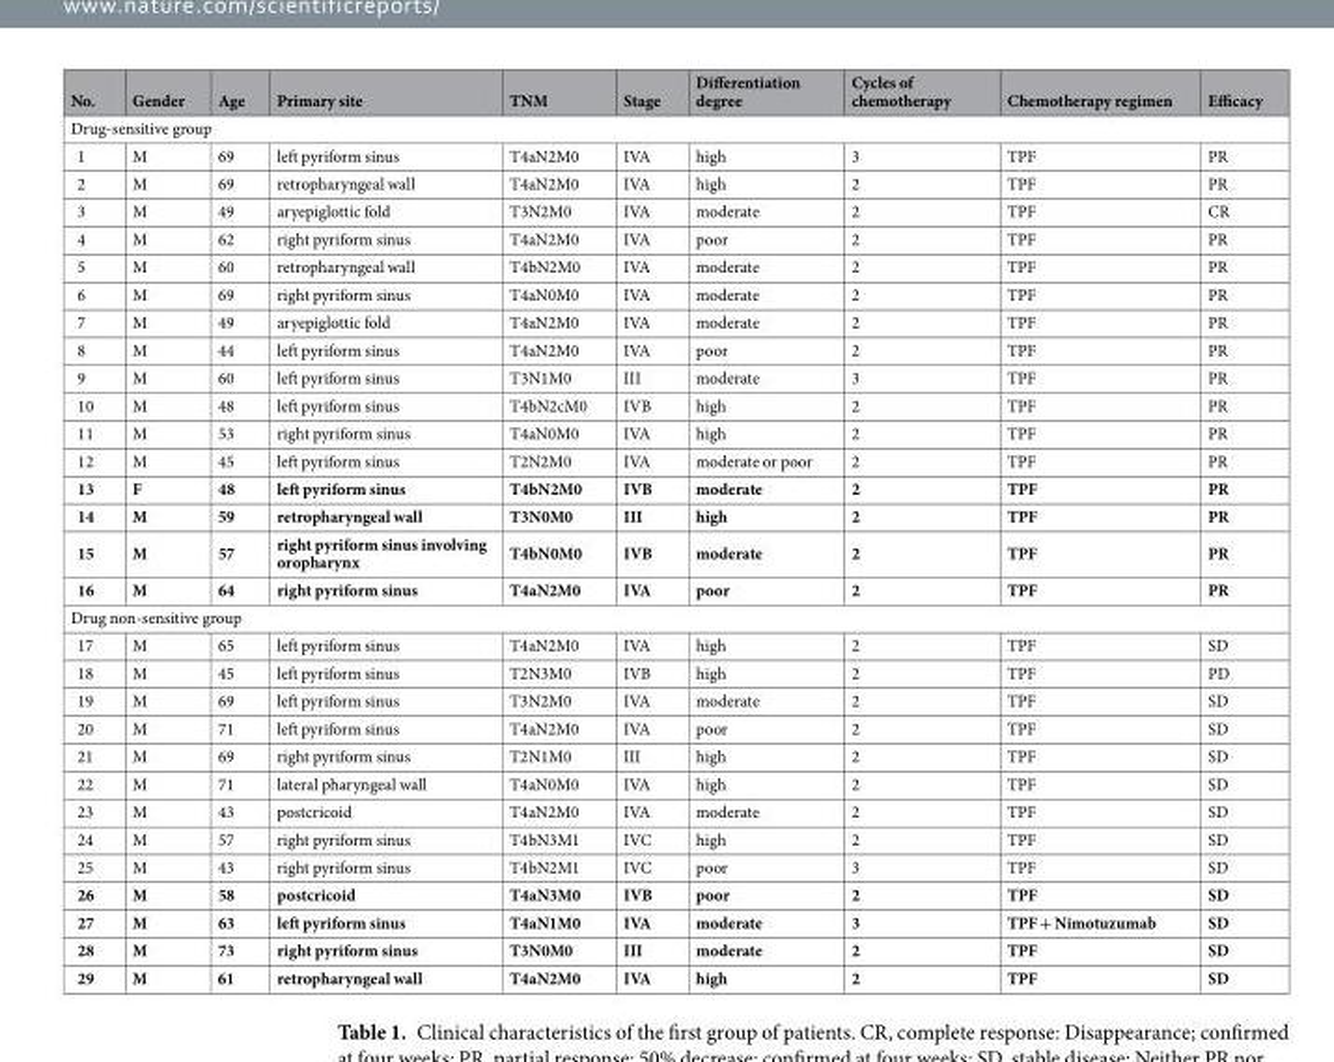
<table><thead><tr><td>No.</td><td>Gender</td><td>Age</td><td>Primary site</td><td>TNM</td><td>Stage</td><td>Differentiation degree</td><td>Cycles of chemotherapy</td><td>Chemotherapy regimen</td><td>Efficacy</td></tr></thead><tbody><tr><td colspan="10">Drug-sensitive group</td></tr><tr><td>1</td><td>M</td><td>69</td><td>left pyriform sinus</td><td>T4aN2M0</td><td>IVA</td><td>high</td><td>3</td><td>TPF</td><td>PR</td></tr><tr><td>2</td><td>M</td><td>69</td><td>retropharyngeal wall</td><td>T4aN2M0</td><td>IVA</td><td>high</td><td>2</td><td>TPF</td><td>PR</td></tr><tr><td>3</td><td>M</td><td>49</td><td>aryepiglottic fold</td><td>T3N2M0</td><td>IVA</td><td>moderate</td><td>2</td><td>TPF</td><td>CR</td></tr><tr><td>4</td><td>M</td><td>62</td><td>right pyriform sinus</td><td>T4aN2M0</td><td>IVA</td><td>poor</td><td>2</td><td>TPF</td><td>PR</td></tr><tr><td>5</td><td>M</td><td>60</td><td>retropharyngeal wall</td><td>T4bN2M0</td><td>IVA</td><td>moderate</td><td>2</td><td>TPF</td><td>PR</td></tr><tr><td>6</td><td>M</td><td>69</td><td>right pyriform sinus</td><td>T4aN0M0</td><td>IVA</td><td>moderate</td><td>2</td><td>TPF</td><td>PR</td></tr><tr><td>7</td><td>M</td><td>49</td><td>aryepiglottic fold</td><td>T4aN2M0</td><td>IVA</td><td>moderate</td><td>2</td><td>TPF</td><td>PR</td></tr><tr><td>8</td><td>M</td><td>44</td><td>left pyriform sinus</td><td>T4aN2M0</td><td>IVA</td><td>poor</td><td>2</td><td>TPF</td><td>PR</td></tr><tr><td>9</td><td>M</td><td>60</td><td>left pyriform sinus</td><td>T3N1M0</td><td>III</td><td>moderate</td><td>3</td><td>TPF</td><td>PR</td></tr><tr><td>10</td><td>M</td><td>48</td><td>left pyriform sinus</td><td>T4bN2cM0</td><td>IVB</td><td>high</td><td>2</td><td>TPF</td><td>PR</td></tr><tr><td>11</td><td>M</td><td>53</td><td>right pyriform sinus</td><td>T4aN0M0</td><td>IVA</td><td>high</td><td>2</td><td>TPF</td><td>PR</td></tr><tr><td>12</td><td>M</td><td>45</td><td>left pyriform sinus</td><td>T2N2M0</td><td>IVA</td><td>moderate or poor</td><td>2</td><td>TPF</td><td>PR</td></tr><tr><td>13</td><td>F</td><td>48</td><td>left pyriform sinus</td><td>T4bN2M0</td><td>IVB</td><td>moderate</td><td>2</td><td>TPF</td><td>PR</td></tr><tr><td>14</td><td>M</td><td>59</td><td>retropharyngeal wall</td><td>T3N0M0</td><td>III</td><td>high</td><td>2</td><td>TPF</td><td>PR</td></tr><tr><td>15</td><td>M</td><td>57</td><td>right pyriform sinus involving oropharynx</td><td>T4bN0M0</td><td>IVB</td><td>moderate</td><td>2</td><td>TPF</td><td>PR</td></tr><tr><td>16</td><td>M</td><td>64</td><td>right pyriform sinus</td><td>T4aN2M0</td><td>IVA</td><td>poor</td><td>2</td><td>TPF</td><td>PR</td></tr><tr><td colspan="10">Drug non-sensitive group</td></tr><tr><td>17</td><td>M</td><td>65</td><td>left pyriform sinus</td><td>T4aN2M0</td><td>IVA</td><td>high</td><td>2</td><td>TPF</td><td>SD</td></tr><tr><td>18</td><td>M</td><td>45</td><td>left pyriform sinus</td><td>T2N3M0</td><td>IVB</td><td>high</td><td>2</td><td>TPF</td><td>PD</td></tr><tr><td>19</td><td>M</td><td>69</td><td>left pyriform sinus</td><td>T3N2M0</td><td>IVA</td><td>moderate</td><td>2</td><td>TPF</td><td>SD</td></tr><tr><td>20</td><td>M</td><td>71</td><td>left pyriform sinus</td><td>T4aN2M0</td><td>IVA</td><td>poor</td><td>2</td><td>TPF</td><td>SD</td></tr><tr><td>21</td><td>M</td><td>69</td><td>right pyriform sinus</td><td>T2N1M0</td><td>III</td><td>high</td><td>2</td><td>TPF</td><td>SD</td></tr><tr><td>22</td><td>M</td><td>71</td><td>lateral pharyngeal wall</td><td>T4aN0M0</td><td>IVA</td><td>high</td><td>2</td><td>TPF</td><td>SD</td></tr><tr><td>23</td><td>M</td><td>43</td><td>postcricoid</td><td>T4aN2M0</td><td>IVA</td><td>moderate</td><td>2</td><td>TPF</td><td>SD</td></tr><tr><td>24</td><td>M</td><td>57</td><td>right pyriform sinus</td><td>T4bN3M1</td><td>IVC</td><td>high</td><td>2</td><td>TPF</td><td>SD</td></tr><tr><td>25</td><td>M</td><td>43</td><td>right pyriform sinus</td><td>T4bN2M1</td><td>IVC</td><td>poor</td><td>3</td><td>TPF</td><td>SD</td></tr><tr><td>26</td><td>M</td><td>58</td><td>postcricoid</td><td>T4aN3M0</td><td>IVB</td><td>poor</td><td>2</td><td>TPF</td><td>SD</td></tr><tr><td>27</td><td>M</td><td>63</td><td>left pyriform sinus</td><td>T4aN1M0</td><td>IVA</td><td>moderate</td><td>3</td><td>TPF + Nimotuzumab</td><td>SD</td></tr><tr><td>28</td><td>M</td><td>73</td><td>right pyriform sinus</td><td>T3N0M0</td><td>III</td><td>moderate</td><td>2</td><td>TPF</td><td>SD</td></tr><tr><td>29</td><td>M</td><td>61</td><td>retropharyngeal wall</td><td>T4aN2M0</td><td>IVA</td><td>high</td><td>2</td><td>TPF</td><td>SD</td></tr></tbody></table>